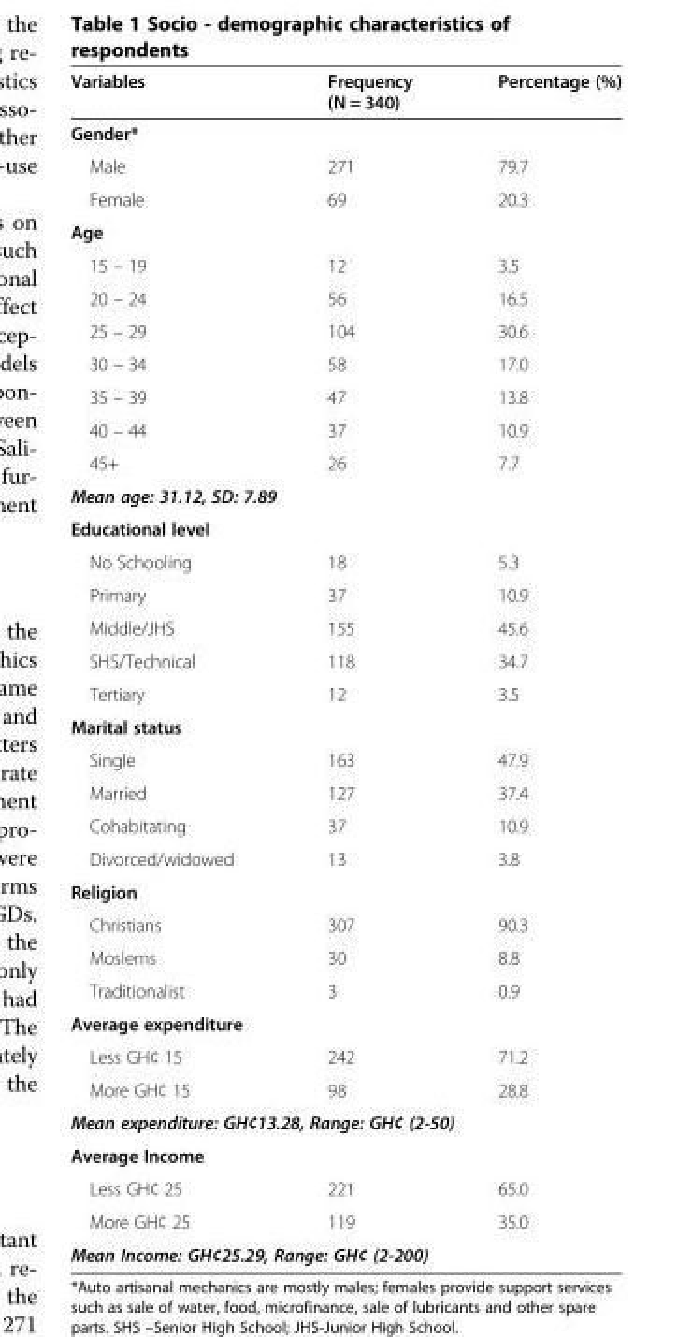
<table><thead><tr><td>Variables</td><td>Frequency (N = 340)</td><td>Percentage (%)</td></tr></thead><tbody><tr><td colspan="3">Gender*</td></tr><tr><td>Male</td><td>271</td><td>79.7</td></tr><tr><td>Female</td><td>69</td><td>20.3</td></tr><tr><td colspan="3">Age</td></tr><tr><td>15 – 19</td><td>12</td><td>3.5</td></tr><tr><td>20 – 24</td><td>56</td><td>16.5</td></tr><tr><td>25 – 29</td><td>104</td><td>30.6</td></tr><tr><td>30 – 34</td><td>58</td><td>17.0</td></tr><tr><td>35 – 39</td><td>47</td><td>13.8</td></tr><tr><td>40 – 44</td><td>37</td><td>10.9</td></tr><tr><td>45+</td><td>26</td><td>7.7</td></tr><tr><td colspan="3">Mean age: 31.12, SD: 7.89</td></tr><tr><td colspan="3">Educational level</td></tr><tr><td>No Schooling</td><td>18</td><td>5.3</td></tr><tr><td>Primary</td><td>37</td><td>10.9</td></tr><tr><td>Middle/JHS</td><td>155</td><td>45.6</td></tr><tr><td>SHS/Technical</td><td>118</td><td>34.7</td></tr><tr><td>Tertiary</td><td>12</td><td>3.5</td></tr><tr><td colspan="3">Marital status</td></tr><tr><td>Single</td><td>163</td><td>47.9</td></tr><tr><td>Married</td><td>127</td><td>37.4</td></tr><tr><td>Cohabitating</td><td>37</td><td>10.9</td></tr><tr><td>Divorced/widowed</td><td>13</td><td>3.8</td></tr><tr><td colspan="3">Religion</td></tr><tr><td>Christians</td><td>307</td><td>90.3</td></tr><tr><td>Moslems</td><td>30</td><td>8.8</td></tr><tr><td>Traditionalist</td><td>3</td><td>0.9</td></tr><tr><td colspan="3">Average expenditure</td></tr><tr><td>Less GH¢ 15</td><td>242</td><td>71.2</td></tr><tr><td>More GH¢ 15</td><td>98</td><td>28.8</td></tr><tr><td colspan="3">Mean expenditure: GH¢13.28, Range: GH¢ (2-50)</td></tr><tr><td colspan="3">Average Income</td></tr><tr><td>Less GH¢ 25</td><td>221</td><td>65.0</td></tr><tr><td>More GH¢ 25</td><td>119</td><td>35.0</td></tr><tr><td colspan="3">Mean Income: GH¢25.29, Range: GH¢ (2-200)</td></tr></tbody></table>